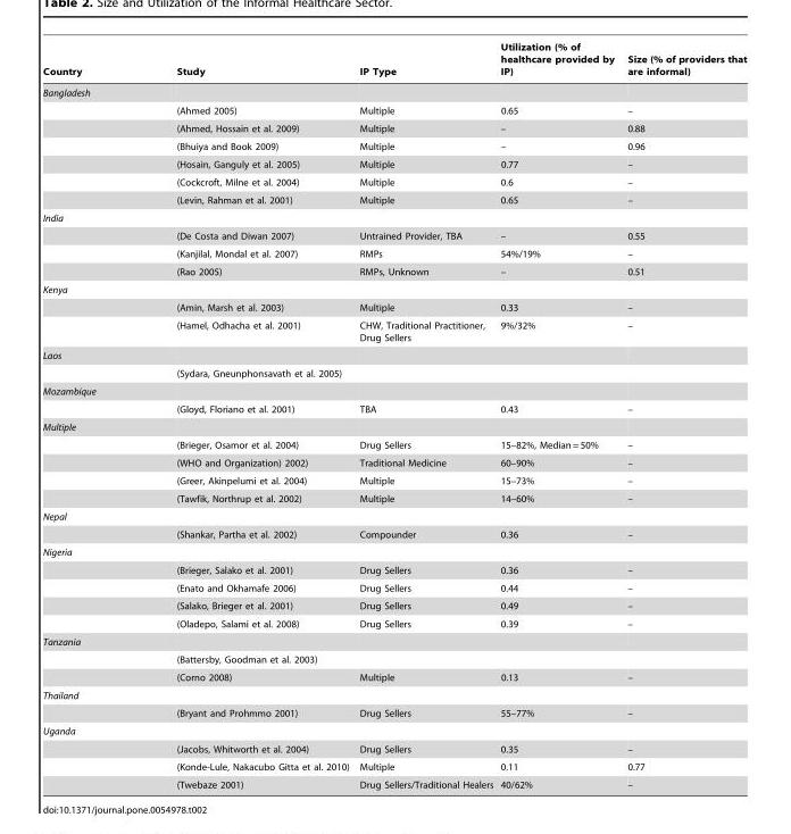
<table><thead><tr><td>Country</td><td>Study</td><td>IP Type</td><td>Utilization (% of healthcare provided by IP)</td><td>Size (% of providers that are informal)</td></tr></thead><tbody><tr><td colspan="5">Bangladesh</td></tr><tr><td></td><td>(Ahmed 2005)</td><td>Multiple</td><td>0.65</td><td>–</td></tr><tr><td></td><td>(Ahmed, Hossain et al. 2009)</td><td>Multiple</td><td>–</td><td>0.88</td></tr><tr><td></td><td>(Bhuiya and Book 2009)</td><td>Multiple</td><td>–</td><td>0.96</td></tr><tr><td></td><td>(Hosain, Ganguly et al. 2005)</td><td>Multiple</td><td>0.77</td><td>–</td></tr><tr><td></td><td>(Cockcroft, Milne et al. 2004)</td><td>Multiple</td><td>0.6</td><td>–</td></tr><tr><td></td><td>(Levin, Rahman et al. 2001)</td><td>Multiple</td><td>0.65</td><td>–</td></tr><tr><td colspan="5">India</td></tr><tr><td></td><td>(De Costa and Diwan 2007)</td><td>Untrained Provider, TBA</td><td>–</td><td>0.55</td></tr><tr><td></td><td>(Kanjilal, Mondal et al. 2007)</td><td>RMPs</td><td>54%/19%</td><td>–</td></tr><tr><td></td><td>(Rao 2005)</td><td>RMPs, Unknown</td><td>–</td><td>0.51</td></tr><tr><td colspan="5">Kenya</td></tr><tr><td></td><td>(Amin, Marsh et al. 2003)</td><td>Multiple</td><td>0.33</td><td>–</td></tr><tr><td></td><td>(Hamel, Odhacha et al. 2001)</td><td>CHW, Traditional Practitioner, Drug Sellers</td><td>9%/32%</td><td>–</td></tr><tr><td colspan="5">Laos</td></tr><tr><td></td><td>(Sydara, Gneunphonsavath et al. 2005)</td><td></td><td></td><td></td></tr><tr><td colspan="5">Mozambique</td></tr><tr><td></td><td>(Gloyd, Floriano et al. 2001)</td><td>TBA</td><td>0.43</td><td>–</td></tr><tr><td colspan="5">Multiple</td></tr><tr><td></td><td>(Brieger, Osamor et al. 2004)</td><td>Drug Sellers</td><td>15–82%, Median = 50%</td><td>–</td></tr><tr><td></td><td>(WHO and Organization) 2002)</td><td>Traditional Medicine</td><td>60–90%</td><td>–</td></tr><tr><td></td><td>(Greer, Akinpelumi et al. 2004)</td><td>Multiple</td><td>15–73%</td><td>–</td></tr><tr><td></td><td>(Tawfik, Northrup et al. 2002)</td><td>Multiple</td><td>14–60%</td><td>–</td></tr><tr><td colspan="5">Nepal</td></tr><tr><td></td><td>(Shankar, Partha et al. 2002)</td><td>Compounder</td><td>0.36</td><td>–</td></tr><tr><td colspan="5">Nigeria</td></tr><tr><td></td><td>(Brieger, Salako et al. 2001)</td><td>Drug Sellers</td><td>0.36</td><td>–</td></tr><tr><td></td><td>(Enato and Okhamafe 2006)</td><td>Drug Sellers</td><td>0.44</td><td>–</td></tr><tr><td></td><td>(Salako, Brieger et al. 2001)</td><td>Drug Sellers</td><td>0.49</td><td>–</td></tr><tr><td></td><td>(Oladepo, Salami et al. 2008)</td><td>Drug Sellers</td><td>0.39</td><td>–</td></tr><tr><td colspan="5">Tanzania</td></tr><tr><td></td><td>(Battersby, Goodman et al. 2003)</td><td></td><td></td><td></td></tr><tr><td></td><td>(Corno 2008)</td><td>Multiple</td><td>0.13</td><td>–</td></tr><tr><td colspan="5">Thailand</td></tr><tr><td></td><td>(Bryant and Prohmmo 2001)</td><td>Drug Sellers</td><td>55–77%</td><td>–</td></tr><tr><td colspan="5">Uganda</td></tr><tr><td></td><td>(Jacobs, Whitworth et al. 2004)</td><td>Drug Sellers</td><td>0.35</td><td>–</td></tr><tr><td></td><td>(Konde-Lule, Nakacubo Gitta et al. 2010)</td><td>Multiple</td><td>0.11</td><td>0.77</td></tr><tr><td></td><td>(Twebaze 2001)</td><td>Drug Sellers/Traditional Healers</td><td>40/62%</td><td>–</td></tr></tbody></table>